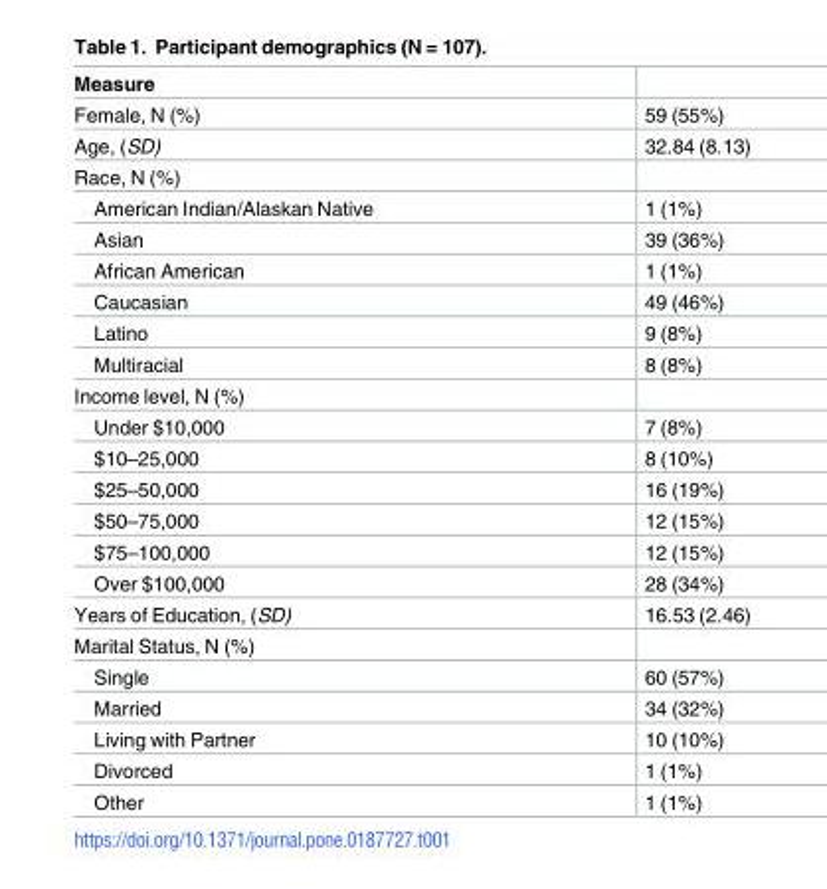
<table><thead><tr><td>Measure</td><td></td></tr></thead><tbody><tr><td>Female, N (%)</td><td>59 (55%)</td></tr><tr><td>Age, (SD)</td><td>32.84 (8.13)</td></tr><tr><td colspan="2">Race, N (%)</td></tr><tr><td>American Indian/Alaskan Native</td><td>1 (1%)</td></tr><tr><td>Asian</td><td>39 (36%)</td></tr><tr><td>African American</td><td>1 (1%)</td></tr><tr><td>Caucasian</td><td>49 (46%)</td></tr><tr><td>Latino</td><td>9 (8%)</td></tr><tr><td>Multiracial</td><td>8 (8%)</td></tr><tr><td colspan="2">Income level, N (%)</td></tr><tr><td>Under $10,000</td><td>7 (8%)</td></tr><tr><td>$10–25,000</td><td>8 (10%)</td></tr><tr><td>$25–50,000</td><td>16 (19%)</td></tr><tr><td>$50–75,000</td><td>12 (15%)</td></tr><tr><td>$75–100,000</td><td>12 (15%)</td></tr><tr><td>Over $100,000</td><td>28 (34%)</td></tr><tr><td>Years of Education, (SD)</td><td>16.53 (2.46)</td></tr><tr><td colspan="2">Marital Status, N (%)</td></tr><tr><td>Single</td><td>60 (57%)</td></tr><tr><td>Married</td><td>34 (32%)</td></tr><tr><td>Living with Partner</td><td>10 (10%)</td></tr><tr><td>Divorced</td><td>1 (1%)</td></tr><tr><td>Other</td><td>1 (1%)</td></tr></tbody></table>